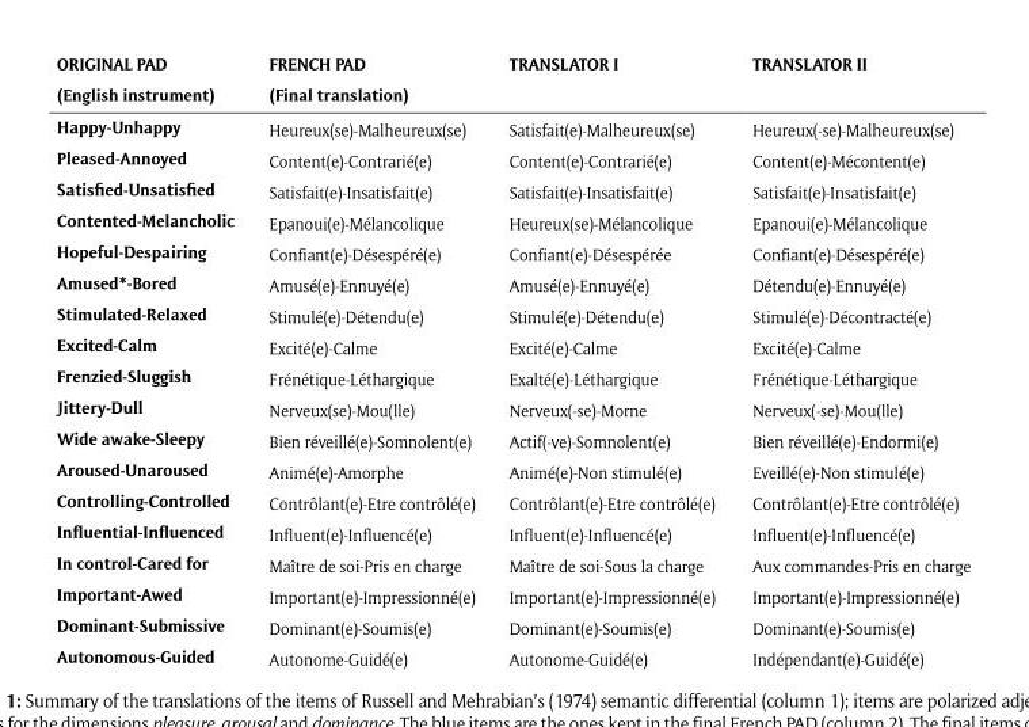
<table><thead><tr><td rowspan="2">ORIGINAL PAD (English instrument)</td><td rowspan="2">FRENCH PAD (Final translation)</td><td rowspan="2">TRANSLATOR I</td><td rowspan="2">TRANSLATOR II</td></tr><tr></tr></thead><tbody><tr><td>Happy-Unhappy</td><td>Heureux(se)-Malheureux(se)</td><td>Satisfait(e)-Malheureux(se)</td><td>Heureux(-se)-Malheureux(se)</td></tr><tr><td>Pleased-Annoyed</td><td>Content(e)-Contrarié(e)</td><td>Content(e)-Contrarié(e)</td><td>Content(e)-Mécontent(e)</td></tr><tr><td>Satisfied-Unsatisfied</td><td>Satisfait(e)-Insatisfait(e)</td><td>Satisfait(e)-Insatisfait(e)</td><td>Satisfait(e)-Insatisfait(e)</td></tr><tr><td>Contented-Melancholic</td><td>Epanoui(e)-Mélancolique</td><td>Heureux(se)-Mélancolique</td><td>Epanoui(e)-Mélancolique</td></tr><tr><td>Hopeful-Despairing</td><td>Confiant(e)-Désespéré(e)</td><td>Confiant(e)-Désespérée</td><td>Confiant(e)-Désespéré(e)</td></tr><tr><td>Amused*-Bored</td><td>Amusé(e)-Ennuyé(e)</td><td>Amusé(e)-Ennuyé(e)</td><td>Détendu(e)-Ennuyé(e)</td></tr><tr><td>Stimulated-Relaxed</td><td>Stimulé(e)-Détendu(e)</td><td>Stimulé(e)-Détendu(e)</td><td>Stimulé(e)-Décontracté(e)</td></tr><tr><td>Excited-Calm</td><td>Excité(e)-Calme</td><td>Excité(e)-Calme</td><td>Excité(e)-Calme</td></tr><tr><td>Frenzied-Sluggish</td><td>Frénétique-Léthargique</td><td>Exalté(e)-Léthargique</td><td>Frénétique-Léthargique</td></tr><tr><td>Jittery-Dull</td><td>Nerveux(se)-Mou(lle)</td><td>Nerveux(-se)-Morne</td><td>Nerveux(-se)-Mou(lle)</td></tr><tr><td>Wide awake-Sleepy</td><td>Bien réveillé(e)-Somnolent(e)</td><td>Actif(-ve)-Somnolent(e)</td><td>Bien réveillé(e)-Endormi(e)</td></tr><tr><td>Aroused-Unaroused</td><td>Animé(e)-Amorphe</td><td>Animé(e)-Non stimulé(e)</td><td>Eveillé(e)-Non stimulé(e)</td></tr><tr><td>Controlling-Controlled</td><td>Contrôlant(e)-Etre contrôlé(e)</td><td>Contrôlant(e)-Etre contrôlé(e)</td><td>Contrôlant(e)-Etre contrôlé(e)</td></tr><tr><td>Influential-Influenced</td><td>Influent(e)-Influencé(e)</td><td>Influent(e)-Influencé(e)</td><td>Influent(e)-Influencé(e)</td></tr><tr><td>In control-Cared for</td><td>Maître de soi-Pris en charge</td><td>Maître de soi-Sous la charge</td><td>Aux commandes-Pris en charge</td></tr><tr><td>Important-Awed</td><td>Important(e)-Impressionné(e)</td><td>Important(e)-Impressionné(e)</td><td>Important(e)-Impressionné(e)</td></tr><tr><td>Dominant-Submissive</td><td>Dominant(e)-Soumis(e)</td><td>Dominant(e)-Soumis(e)</td><td>Dominant(e)-Soumis(e)</td></tr><tr><td>Autonomous-Guided</td><td>Autonome-Guidé(e)</td><td>Autonome-Guidé(e)</td><td>Indépendant(e)-Guidé(e)</td></tr></tbody></table>